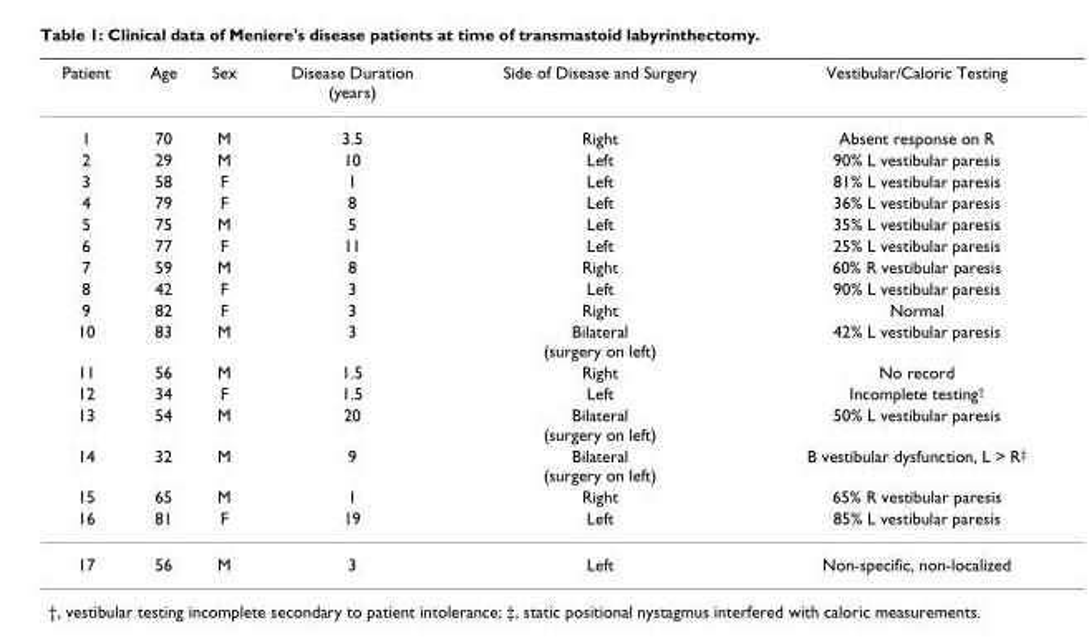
<table><thead><tr><td>Patient</td><td>Age</td><td>Sex</td><td>Disease Duration (years)</td><td>Side of Disease and Surgery</td><td>Vestibular/Caloric Testing</td></tr></thead><tbody><tr><td>1</td><td>70</td><td>M</td><td>3.5</td><td>Right</td><td>Absent response on R</td></tr><tr><td>2</td><td>29</td><td>M</td><td>10</td><td>Left</td><td>90% L vestibular paresis</td></tr><tr><td>3</td><td>58</td><td>F</td><td>1</td><td>Left</td><td>81% L vestibular paresis</td></tr><tr><td>4</td><td>79</td><td>F</td><td>8</td><td>Left</td><td>36% L vestibular paresis</td></tr><tr><td>5</td><td>75</td><td>M</td><td>5</td><td>Left</td><td>35% L vestibular paresis</td></tr><tr><td>6</td><td>77</td><td>F</td><td>11</td><td>Left</td><td>25% L vestibular paresis</td></tr><tr><td>7</td><td>59</td><td>M</td><td>8</td><td>Right</td><td>60% R vestibular paresis</td></tr><tr><td>8</td><td>42</td><td>F</td><td>3</td><td>Left</td><td>90% L vestibular paresis</td></tr><tr><td>9</td><td>82</td><td>F</td><td>3</td><td>Right</td><td>Normal</td></tr><tr><td>10</td><td>83</td><td>M</td><td>3</td><td>Bilateral (surgery on left)</td><td>42% L vestibular paresis</td></tr><tr><td>11</td><td>56</td><td>M</td><td>1.5</td><td>Right</td><td>No record</td></tr><tr><td>12</td><td>34</td><td>F</td><td>1.5</td><td>Left</td><td>Incomplete testing<sup>†</sup></td></tr><tr><td>13</td><td>54</td><td>M</td><td>20</td><td>Bilateral (surgery on left)</td><td>50% L vestibular paresis</td></tr><tr><td>14</td><td>32</td><td>M</td><td>9</td><td>Bilateral (surgery on left)</td><td>B vestibular dysfunction, L &gt; R<sup>‡</sup></td></tr><tr><td>15</td><td>65</td><td>M</td><td>1</td><td>Right</td><td>65% R vestibular paresis</td></tr><tr><td>16</td><td>81</td><td>F</td><td>19</td><td>Left</td><td>85% L vestibular paresis</td></tr><tr><td>17</td><td>56</td><td>M</td><td>3</td><td>Left</td><td>Non-specific, non-localized</td></tr></tbody></table>